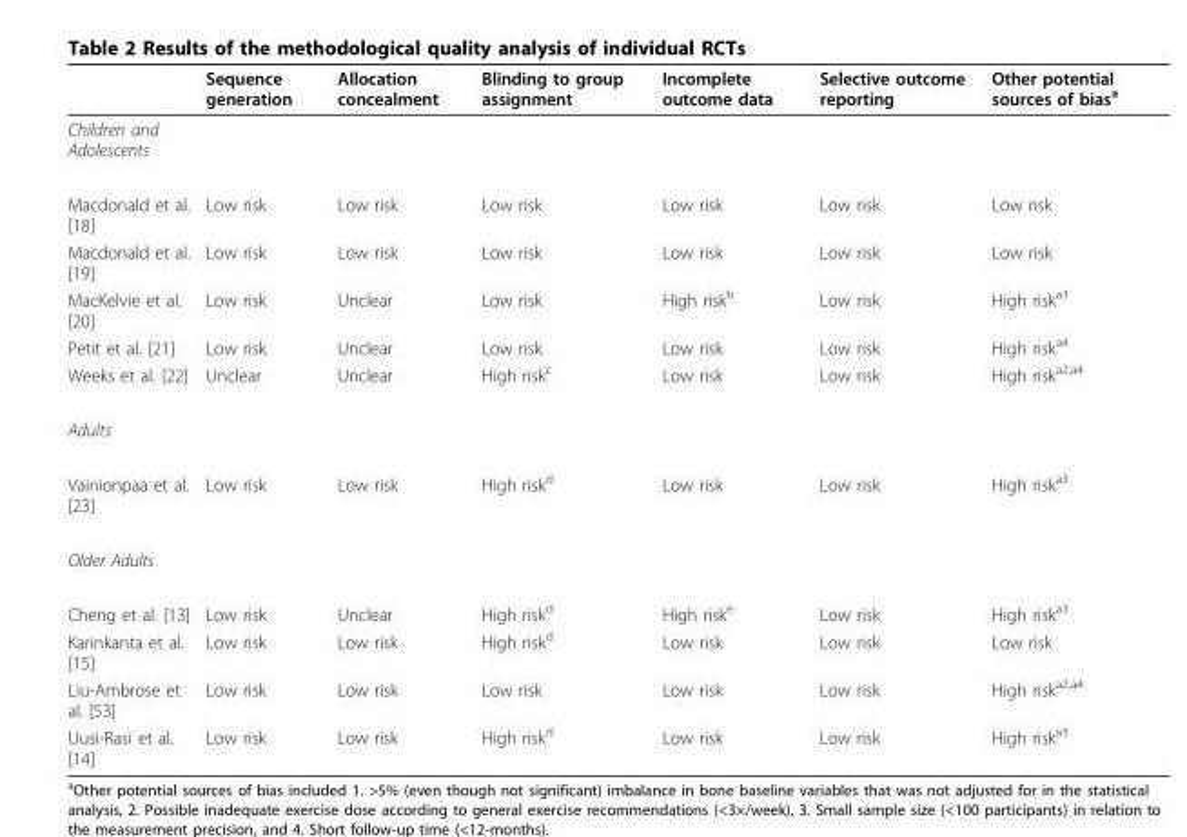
<table><thead><tr><td></td><td>Sequence generation</td><td>Allocation concealment</td><td>Blinding to group assignment</td><td>Incomplete outcome data</td><td>Selective outcome reporting</td><td>Other potential sources of bias<sup>a</sup></td></tr></thead><tbody><tr><td colspan="7">Children and Adolescents</td></tr><tr><td>Macdonald et al. [18]</td><td>Low risk</td><td>Low risk</td><td>Low risk</td><td>Low risk</td><td>Low risk</td><td>Low risk</td></tr><tr><td>Macdonald et al. [19]</td><td>Low risk</td><td>Low risk</td><td>Low risk</td><td>Low risk</td><td>Low risk</td><td>Low risk</td></tr><tr><td>MacKelvie et al. [20]</td><td>Low risk</td><td>Unclear</td><td>Low risk</td><td>High risk<sup>b</sup></td><td>Low risk</td><td>High risk<sup>a3</sup></td></tr><tr><td>Petit et al. [21]</td><td>Low risk</td><td>Unclear</td><td>Low risk</td><td>Low risk</td><td>Low risk</td><td>High risk<sup>a4</sup></td></tr><tr><td>Weeks et al. [22]</td><td>Unclear</td><td>Unclear</td><td>High risk<sup>c</sup></td><td>Low risk</td><td>Low risk</td><td>High risk<sup>a2,a4</sup></td></tr><tr><td colspan="7">Adults</td></tr><tr><td>Vainionpaa et al. [23]</td><td>Low risk</td><td>Low risk</td><td>High risk<sup>d</sup></td><td>Low risk</td><td>Low risk</td><td>High risk<sup>a3</sup></td></tr><tr><td colspan="7">Older Adults</td></tr><tr><td>Cheng et al. [13]</td><td>Low risk</td><td>Unclear</td><td>High risk<sup>d</sup></td><td>High risk<sup>e</sup></td><td>Low risk</td><td>High risk<sup>a3</sup></td></tr><tr><td>Karinkanta et al. [15]</td><td>Low risk</td><td>Low risk</td><td>High risk<sup>d</sup></td><td>Low risk</td><td>Low risk</td><td>Low risk</td></tr><tr><td>Liu-Ambrose et al. [53]</td><td>Low risk</td><td>Low risk</td><td>Low risk</td><td>Low risk</td><td>Low risk</td><td>High risk<sup>a2,a4</sup></td></tr><tr><td>Uusi-Rasi et al. [14]</td><td>Low risk</td><td>Low risk</td><td>High risk<sup>d</sup></td><td>Low risk</td><td>Low risk</td><td>High risk<sup>a3</sup></td></tr></tbody></table>